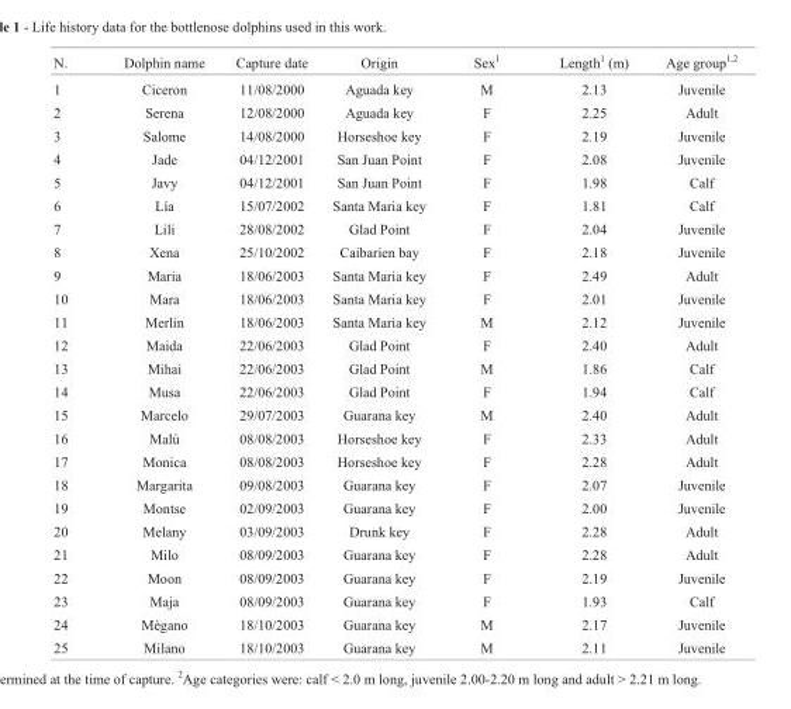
<table><thead><tr><td>N.</td><td>Dolphin name</td><td>Capture date</td><td>Origin</td><td>Sex<sup>1</sup></td><td>Length<sup>1</sup> (m)</td><td>Age group<sup>1,2</sup></td></tr></thead><tbody><tr><td>1</td><td>Ciceron</td><td>11/08/2000</td><td>Aguada key</td><td>M</td><td>2.13</td><td>Juvenile</td></tr><tr><td>2</td><td>Serena</td><td>12/08/2000</td><td>Aguada key</td><td>F</td><td>2.25</td><td>Adult</td></tr><tr><td>3</td><td>Salome</td><td>14/08/2000</td><td>Horseshoe key</td><td>F</td><td>2.19</td><td>Juvenile</td></tr><tr><td>4</td><td>Jade</td><td>04/12/2001</td><td>San Juan Point</td><td>F</td><td>2.08</td><td>Juvenile</td></tr><tr><td>5</td><td>Javy</td><td>04/12/2001</td><td>San Juan Point</td><td>F</td><td>1.98</td><td>Calf</td></tr><tr><td>6</td><td>Lía</td><td>15/07/2002</td><td>Santa Maria key</td><td>F</td><td>1.81</td><td>Calf</td></tr><tr><td>7</td><td>Lili</td><td>28/08/2002</td><td>Glad Point</td><td>F</td><td>2.04</td><td>Juvenile</td></tr><tr><td>8</td><td>Xena</td><td>25/10/2002</td><td>Caibarien bay</td><td>F</td><td>2.18</td><td>Juvenile</td></tr><tr><td>9</td><td>Maria</td><td>18/06/2003</td><td>Santa Maria key</td><td>F</td><td>2.49</td><td>Adult</td></tr><tr><td>10</td><td>Mara</td><td>18/06/2003</td><td>Santa Maria key</td><td>F</td><td>2.01</td><td>Juvenile</td></tr><tr><td>11</td><td>Merlin</td><td>18/06/2003</td><td>Santa Maria key</td><td>M</td><td>2.12</td><td>Juvenile</td></tr><tr><td>12</td><td>Maida</td><td>22/06/2003</td><td>Glad Point</td><td>F</td><td>2.40</td><td>Adult</td></tr><tr><td>13</td><td>Mihai</td><td>22/06/2003</td><td>Glad Point</td><td>M</td><td>1.86</td><td>Calf</td></tr><tr><td>14</td><td>Musa</td><td>22/06/2003</td><td>Glad Point</td><td>F</td><td>1.94</td><td>Calf</td></tr><tr><td>15</td><td>Marcelo</td><td>29/07/2003</td><td>Guarana key</td><td>M</td><td>2.40</td><td>Adult</td></tr><tr><td>16</td><td>Malù</td><td>08/08/2003</td><td>Horseshoe key</td><td>F</td><td>2.33</td><td>Adult</td></tr><tr><td>17</td><td>Monica</td><td>08/08/2003</td><td>Horseshoe key</td><td>F</td><td>2.28</td><td>Adult</td></tr><tr><td>18</td><td>Margarita</td><td>09/08/2003</td><td>Guarana key</td><td>F</td><td>2.07</td><td>Juvenile</td></tr><tr><td>19</td><td>Montse</td><td>02/09/2003</td><td>Guarana key</td><td>F</td><td>2.00</td><td>Juvenile</td></tr><tr><td>20</td><td>Melany</td><td>03/09/2003</td><td>Drunk key</td><td>F</td><td>2.28</td><td>Adult</td></tr><tr><td>21</td><td>Milo</td><td>08/09/2003</td><td>Guarana key</td><td>F</td><td>2.28</td><td>Adult</td></tr><tr><td>22</td><td>Moon</td><td>08/09/2003</td><td>Guarana key</td><td>F</td><td>2.19</td><td>Juvenile</td></tr><tr><td>23</td><td>Maja</td><td>08/09/2003</td><td>Guarana key</td><td>F</td><td>1.93</td><td>Calf</td></tr><tr><td>24</td><td>Mègano</td><td>18/10/2003</td><td>Guarana key</td><td>M</td><td>2.17</td><td>Juvenile</td></tr><tr><td>25</td><td>Milano</td><td>18/10/2003</td><td>Guarana key</td><td>M</td><td>2.11</td><td>Juvenile</td></tr></tbody></table>